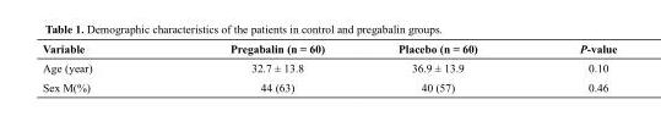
<table><thead><tr><td>Variable</td><td>Pregabalin (n = 60)</td><td>Placebo (n = 60)</td><td>P-value</td></tr></thead><tbody><tr><td>Age (year)</td><td>32.7 ± 13.8</td><td>36.9 ± 13.9</td><td>0.10</td></tr><tr><td>Sex M(%)</td><td>44 (63)</td><td>40 (57)</td><td>0.46</td></tr></tbody></table>